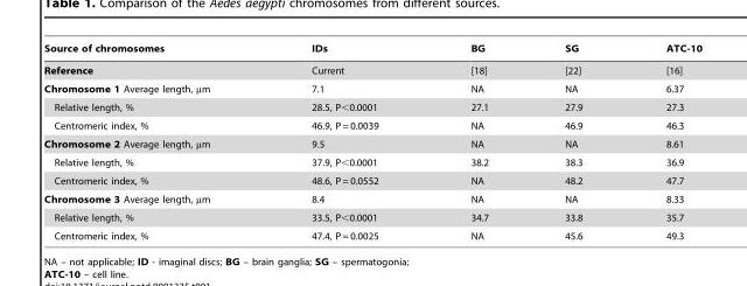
<table><thead><tr><td>Source of chromosomes</td><td>IDs</td><td>BG</td><td>SG</td><td>ATC-10</td></tr></thead><tbody><tr><td>Reference</td><td>Current</td><td>[18]</td><td>[22]</td><td>[16]</td></tr><tr><td>Chromosome 1 Average length, µm</td><td>7.1</td><td>NA</td><td>NA</td><td>6.37</td></tr><tr><td>Relative length, %</td><td>28.5, P&lt;0.0001</td><td>27.1</td><td>27.9</td><td>27.3</td></tr><tr><td>Centromeric index, %</td><td>46.9, P = 0.0039</td><td>NA</td><td>46.9</td><td>46.3</td></tr><tr><td>Chromosome 2 Average length, µm</td><td>9.5</td><td>NA</td><td>NA</td><td>8.61</td></tr><tr><td>Relative length, %</td><td>37.9, P&lt;0.0001</td><td>38.2</td><td>38.3</td><td>36.9</td></tr><tr><td>Centromeric index, %</td><td>48.6, P = 0.0552</td><td>NA</td><td>48.2</td><td>47.7</td></tr><tr><td>Chromosome 3 Average length, µm</td><td>8.4</td><td>NA</td><td>NA</td><td>8.33</td></tr><tr><td>Relative length, %</td><td>33.5, P&lt;0.0001</td><td>34.7</td><td>33.8</td><td>35.7</td></tr><tr><td>Centromeric index, %</td><td>47.4, P = 0.0025</td><td>NA</td><td>45.6</td><td>49.3</td></tr></tbody></table>